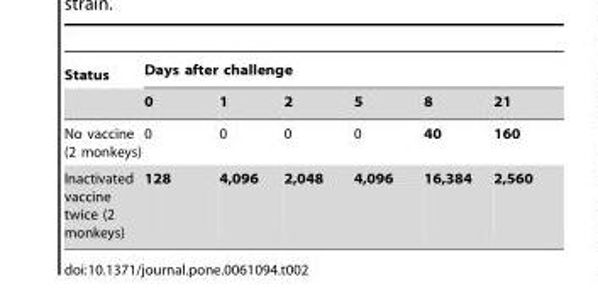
<table><thead><tr><td rowspan="2">Status</td><td colspan="6">Days after challenge</td></tr><tr><td>0</td><td>1</td><td>2</td><td>5</td><td>8</td><td>21</td></tr></thead><tbody><tr><td>No vaccine (2 monkeys)</td><td>0</td><td>0</td><td>0</td><td>0</td><td>40</td><td>160</td></tr><tr><td>Inactivated vaccine twice (2 monkeys)</td><td>128</td><td>4,096</td><td>2,048</td><td>4,096</td><td>16,384</td><td>2,560</td></tr></tbody></table>